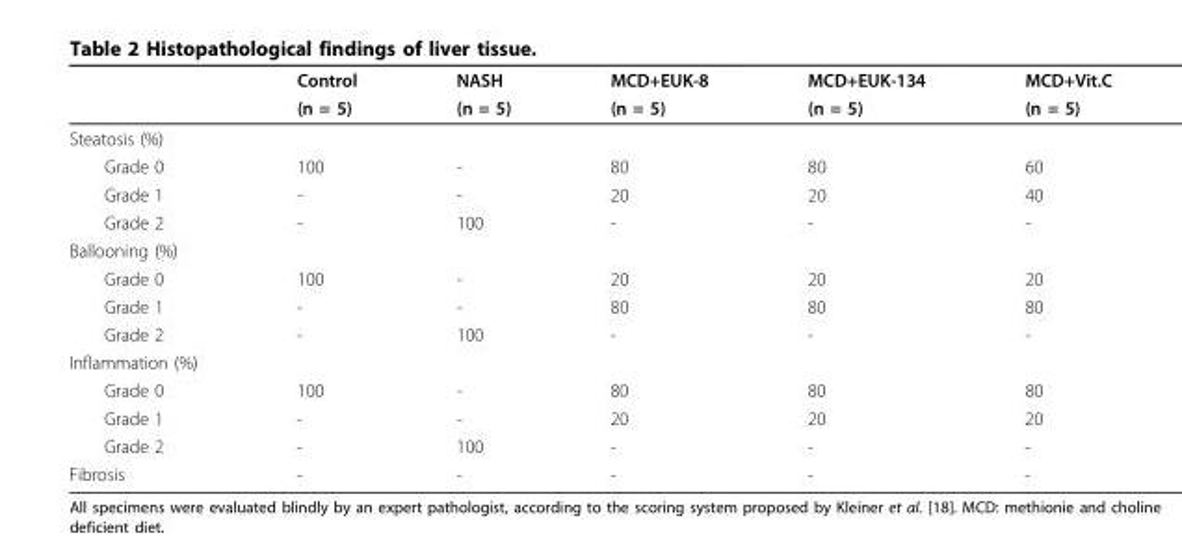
<table><thead><tr><td rowspan="2"></td><td rowspan="2">Control (n = 5)</td><td rowspan="2">NASH (n = 5)</td><td rowspan="2">MCD+EUK-8 (n = 5)</td><td rowspan="2">MCD+EUK-134 (n = 5)</td><td rowspan="2">MCD+Vit.C (n = 5)</td></tr><tr></tr></thead><tbody><tr><td colspan="6">Steatosis (%)</td></tr><tr><td>Grade 0</td><td>100</td><td>-</td><td>80</td><td>80</td><td>60</td></tr><tr><td>Grade 1</td><td>-</td><td>-</td><td>20</td><td>20</td><td>40</td></tr><tr><td>Grade 2</td><td>-</td><td>100</td><td>-</td><td>-</td><td>-</td></tr><tr><td colspan="6">Ballooning (%)</td></tr><tr><td>Grade 0</td><td>100</td><td>-</td><td>20</td><td>20</td><td>20</td></tr><tr><td>Grade 1</td><td>-</td><td>-</td><td>80</td><td>80</td><td>80</td></tr><tr><td>Grade 2</td><td>-</td><td>100</td><td>-</td><td>-</td><td>-</td></tr><tr><td colspan="6">Inflammation (%)</td></tr><tr><td>Grade 0</td><td>100</td><td>-</td><td>80</td><td>80</td><td>80</td></tr><tr><td>Grade 1</td><td>-</td><td>-</td><td>20</td><td>20</td><td>20</td></tr><tr><td>Grade 2</td><td>-</td><td>100</td><td>-</td><td>-</td><td>-</td></tr><tr><td>Fibrosis</td><td>-</td><td>-</td><td>-</td><td>-</td><td>-</td></tr></tbody></table>